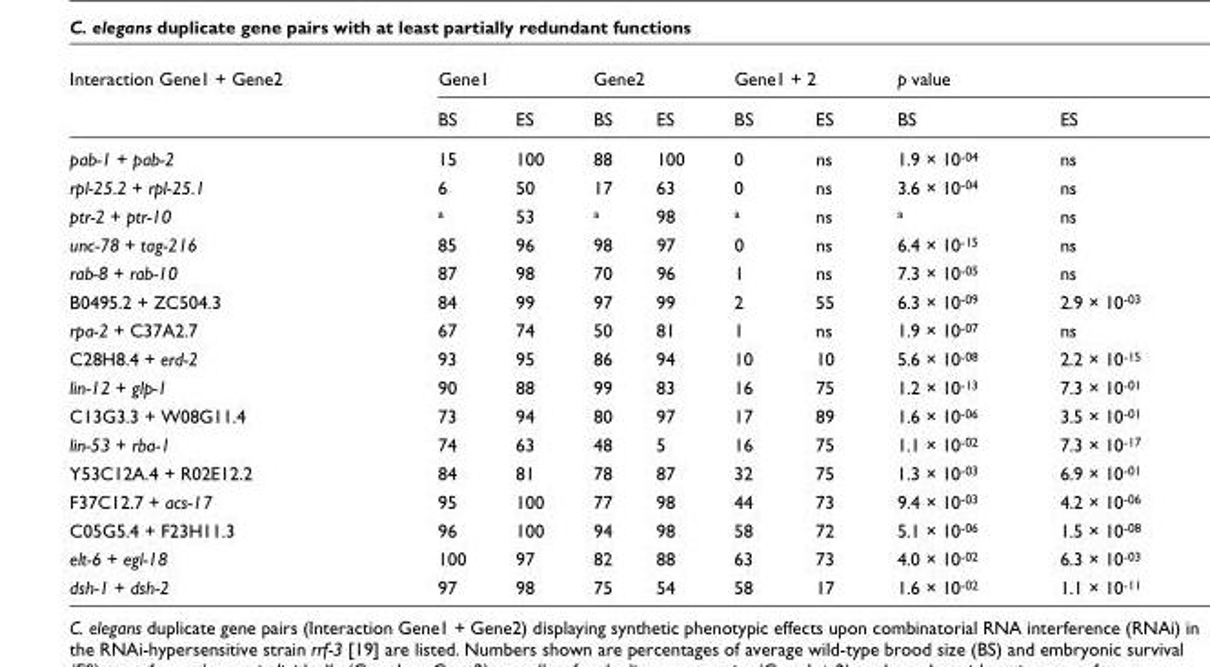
<table><thead><tr><td rowspan="2">Interaction Gene1 + Gene2</td><td colspan="2">Gene1</td><td colspan="2">Gene2</td><td colspan="2">Gene1 + 2</td><td colspan="2">p value</td></tr><tr><td>BS</td><td>ES</td><td>BS</td><td>ES</td><td>BS</td><td>ES</td><td>BS</td><td>ES</td></tr></thead><tbody><tr><td>pab-1 + pab-2</td><td>15</td><td>100</td><td>88</td><td>100</td><td>0</td><td>ns</td><td>1.9 × 10-04</td><td>ns</td></tr><tr><td>rpl-25.2 + rpl-25.1</td><td>6</td><td>50</td><td>17</td><td>63</td><td>0</td><td>ns</td><td>3.6 × 10-04</td><td>ns</td></tr><tr><td>ptr-2 + ptr-10</td><td>a</td><td>53</td><td>a</td><td>98</td><td>a</td><td>ns</td><td>a</td><td>ns</td></tr><tr><td>unc-78 + tag-216</td><td>85</td><td>96</td><td>98</td><td>97</td><td>0</td><td>ns</td><td>6.4 × 10-15</td><td>ns</td></tr><tr><td>rab-8 + rab-10</td><td>87</td><td>98</td><td>70</td><td>96</td><td>1</td><td>ns</td><td>7.3 × 10-05</td><td>ns</td></tr><tr><td>B0495.2 + ZC504.3</td><td>84</td><td>99</td><td>97</td><td>99</td><td>2</td><td>55</td><td>6.3 × 10-09</td><td>2.9 × 10-03</td></tr><tr><td>rpa-2 + C37A2.7</td><td>67</td><td>74</td><td>50</td><td>81</td><td>1</td><td>ns</td><td>1.9 × 10-07</td><td>ns</td></tr><tr><td>C28H8.4 + erd-2</td><td>93</td><td>95</td><td>86</td><td>94</td><td>10</td><td>10</td><td>5.6 × 10-08</td><td>2.2 × 10-15</td></tr><tr><td>lin-12 + glp-1</td><td>90</td><td>88</td><td>99</td><td>83</td><td>16</td><td>75</td><td>1.2 × 10-13</td><td>7.3 × 10-01</td></tr><tr><td>C13G3.3 + W08G11.4</td><td>73</td><td>94</td><td>80</td><td>97</td><td>17</td><td>89</td><td>1.6 × 10-06</td><td>3.5 × 10-01</td></tr><tr><td>lin-53 + rba-1</td><td>74</td><td>63</td><td>48</td><td>5</td><td>16</td><td>75</td><td>1.1 × 10-02</td><td>7.3 × 10-17</td></tr><tr><td>Y53C12A.4 + R02E12.2</td><td>84</td><td>81</td><td>78</td><td>87</td><td>32</td><td>75</td><td>1.3 × 10-03</td><td>6.9 × 10-01</td></tr><tr><td>F37C12.7 + acs-17</td><td>95</td><td>100</td><td>77</td><td>98</td><td>44</td><td>73</td><td>9.4 × 10-03</td><td>4.2 × 10-06</td></tr><tr><td>C05G5.4 + F23H11.3</td><td>96</td><td>100</td><td>94</td><td>98</td><td>58</td><td>72</td><td>5.1 × 10-06</td><td>1.5 × 10-08</td></tr><tr><td>elt-6 + egl-18</td><td>100</td><td>97</td><td>82</td><td>88</td><td>63</td><td>73</td><td>4.0 × 10-02</td><td>6.3 × 10-03</td></tr><tr><td>dsh-1 + dsh-2</td><td>97</td><td>98</td><td>75</td><td>54</td><td>58</td><td>17</td><td>1.6 × 10-02</td><td>1.1 × 10-11</td></tr></tbody></table>